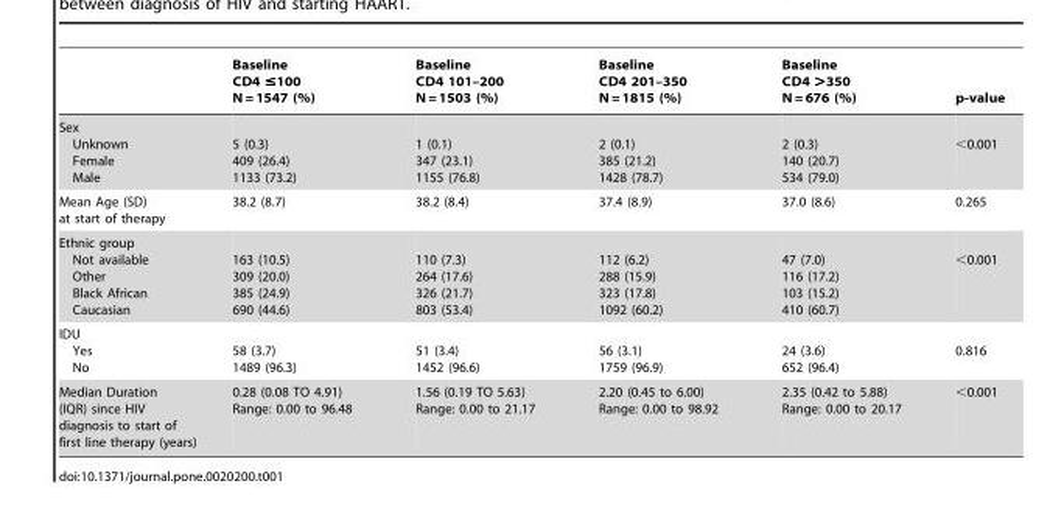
<table><thead><tr><td></td><td>Baseline CD4 ≤100 N = 1547 (%)</td><td>Baseline CD4 101–200 N = 1503 (%)</td><td>Baseline CD4 201–350 N = 1815 (%)</td><td>Baseline CD4 &gt;350 N = 676 (%)</td><td>p-value</td></tr></thead><tbody><tr><td>Sex Unknown Female Male</td><td>5 (0.3) 409 (26.4) 1133 (73.2)</td><td>1 (0.1) 347 (23.1) 1155 (76.8)</td><td>2 (0.1) 385 (21.2) 1428 (78.7)</td><td>2 (0.3) 140 (20.7) 534 (79.0)</td><td>&lt;0.001</td></tr><tr><td>Mean Age (SD) at start of therapy</td><td>38.2 (8.7)</td><td>38.2 (8.4)</td><td>37.4 (8.9)</td><td>37.0 (8.6)</td><td>0.265</td></tr><tr><td>Ethnic group Not available Other Black African Caucasian</td><td>163 (10.5) 309 (20.0) 385 (24.9) 690 (44.6)</td><td>110 (7.3) 264 (17.6) 326 (21.7) 803 (53.4)</td><td>112 (6.2) 288 (15.9) 323 (17.8) 1092 (60.2)</td><td>47 (7.0) 116 (17.2) 103 (15.2) 410 (60.7)</td><td>&lt;0.001</td></tr><tr><td>IDU Yes No</td><td>58 (3.7) 1489 (96.3)</td><td>51 (3.4) 1452 (96.6)</td><td>56 (3.1) 1759 (96.9)</td><td>24 (3.6) 652 (96.4)</td><td>0.816</td></tr><tr><td>Median Duration (IQR) since HIV diagnosis to start of first line therapy (years)</td><td>0.28 (0.08 TO 4.91) Range: 0.00 to 96.48</td><td>1.56 (0.19 TO 5.63) Range: 0.00 to 21.17</td><td>2.20 (0.45 to 6.00) Range: 0.00 to 98.92</td><td>2.35 (0.42 to 5.88) Range: 0.00 to 20.17</td><td>&lt;0.001</td></tr></tbody></table>